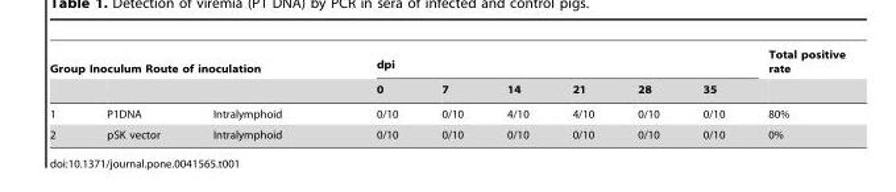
<table><thead><tr><td colspan="3">Group Inoculum Route of inoculation</td><td colspan="6">dpi</td><td rowspan="2">Total positive rate</td></tr><tr><td></td><td></td><td></td><td>0</td><td>7</td><td>14</td><td>21</td><td>28</td><td>35</td></tr></thead><tbody><tr><td>1</td><td>P1DNA</td><td>Intralymphoid</td><td>0/10</td><td>0/10</td><td>4/10</td><td>4/10</td><td>0/10</td><td>0/10</td><td>80%</td></tr><tr><td>2</td><td>pSK vector</td><td>Intralymphoid</td><td>0/10</td><td>0/10</td><td>0/10</td><td>0/10</td><td>0/10</td><td>0/10</td><td>0%</td></tr></tbody></table>